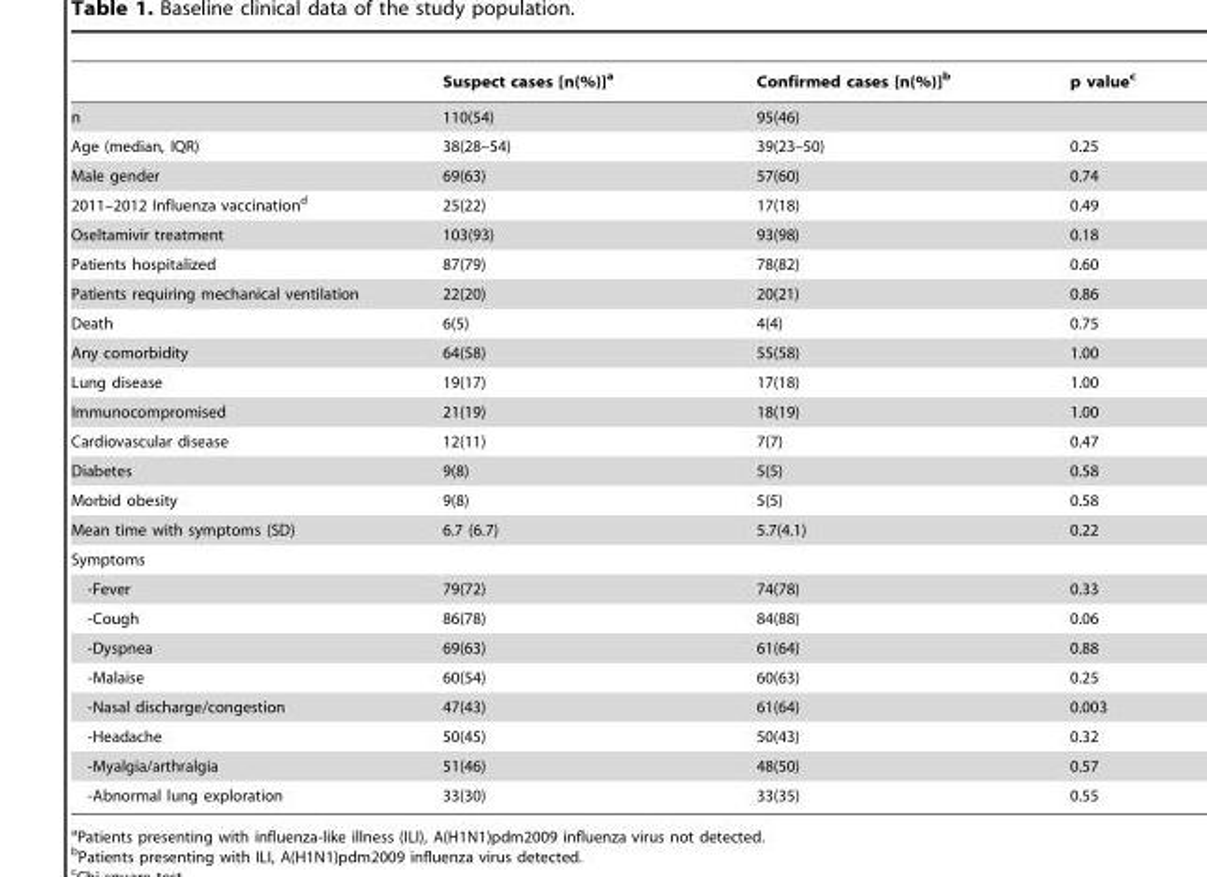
<table><thead><tr><td></td><td>Suspect cases [n(%)]<sup>a</sup></td><td>Confirmed cases [n(%)]<sup>b</sup></td><td>p value<sup>c</sup></td></tr></thead><tbody><tr><td>n</td><td>110(54)</td><td>95(46)</td><td></td></tr><tr><td>Age (median, IQR)</td><td>38(28–54)</td><td>39(23–50)</td><td>0.25</td></tr><tr><td>Male gender</td><td>69(63)</td><td>57(60)</td><td>0.74</td></tr><tr><td>2011–2012 Influenza vaccination<sup>d</sup></td><td>25(22)</td><td>17(18)</td><td>0.49</td></tr><tr><td>Oseltamivir treatment</td><td>103(93)</td><td>93(98)</td><td>0.18</td></tr><tr><td>Patients hospitalized</td><td>87(79)</td><td>78(82)</td><td>0.60</td></tr><tr><td>Patients requiring mechanical ventilation</td><td>22(20)</td><td>20(21)</td><td>0.86</td></tr><tr><td>Death</td><td>6(5)</td><td>4(4)</td><td>0.75</td></tr><tr><td>Any comorbidity</td><td>64(58)</td><td>55(58)</td><td>1.00</td></tr><tr><td>Lung disease</td><td>19(17)</td><td>17(18)</td><td>1.00</td></tr><tr><td>Immunocompromised</td><td>21(19)</td><td>18(19)</td><td>1.00</td></tr><tr><td>Cardiovascular disease</td><td>12(11)</td><td>7(7)</td><td>0.47</td></tr><tr><td>Diabetes</td><td>9(8)</td><td>5(5)</td><td>0.58</td></tr><tr><td>Morbid obesity</td><td>9(8)</td><td>5(5)</td><td>0.58</td></tr><tr><td>Mean time with symptoms (SD)</td><td>6.7 (6.7)</td><td>5.7(4.1)</td><td>0.22</td></tr><tr><td colspan="4">Symptoms</td></tr><tr><td>-Fever</td><td>79(72)</td><td>74(78)</td><td>0.33</td></tr><tr><td>-Cough</td><td>86(78)</td><td>84(88)</td><td>0.06</td></tr><tr><td>-Dyspnea</td><td>69(63)</td><td>61(64)</td><td>0.88</td></tr><tr><td>-Malaise</td><td>60(54)</td><td>60(63)</td><td>0.25</td></tr><tr><td>-Nasal discharge/congestion</td><td>47(43)</td><td>61(64)</td><td>0.003</td></tr><tr><td>-Headache</td><td>50(45)</td><td>50(43)</td><td>0.32</td></tr><tr><td>-Myalgia/arthralgia</td><td>51(46)</td><td>48(50)</td><td>0.57</td></tr><tr><td>-Abnormal lung exploration</td><td>33(30)</td><td>33(35)</td><td>0.55</td></tr></tbody></table>